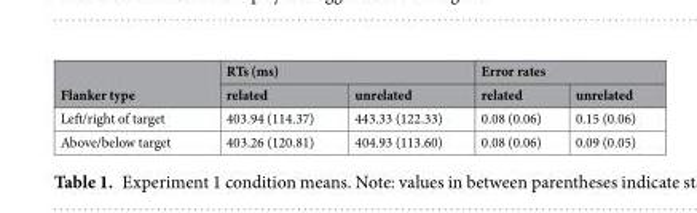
<table><thead><tr><td rowspan="2">Flanker type</td><td colspan="2">RTs (ms)</td><td colspan="2">Error rates</td></tr><tr><td>related</td><td>unrelated</td><td>related</td><td>unrelated</td></tr></thead><tbody><tr><td>Left/right of target</td><td>403.94 (114.37)</td><td>443.33 (122.33)</td><td>0.08 (0.06)</td><td>0.15 (0.06)</td></tr><tr><td>Above/below target</td><td>403.26 (120.81)</td><td>404.93 (113.60)</td><td>0.08 (0.06)</td><td>0.09 (0.05)</td></tr></tbody></table>